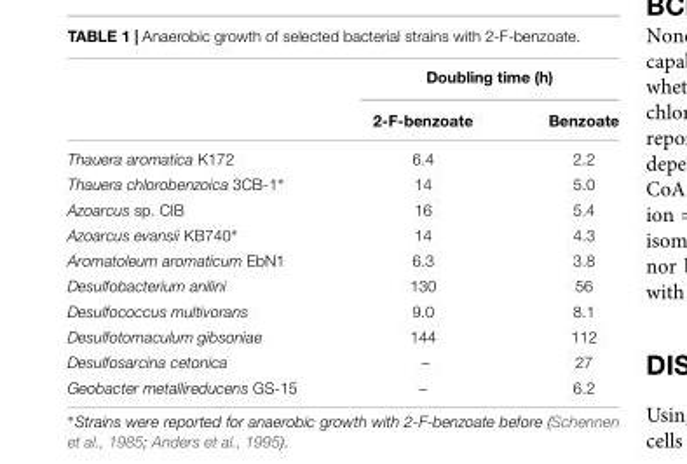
<table><thead><tr><td rowspan="2"></td><td colspan="2">Doubling time (h)</td></tr><tr><td>2-F-benzoate</td><td>Benzoate</td></tr></thead><tbody><tr><td>Thauera aromatica K172</td><td>6.4</td><td>2.2</td></tr><tr><td>Thauera chlorobenzoica 3CB-1∗</td><td>14</td><td>5.0</td></tr><tr><td>Azoarcus sp. CIB</td><td>16</td><td>5.4</td></tr><tr><td>Azoarcus evansii KB740∗</td><td>14</td><td>4.3</td></tr><tr><td>Aromatoleum aromaticum EbN1</td><td>6.3</td><td>3.8</td></tr><tr><td>Desulfobacterium anilini</td><td>130</td><td>56</td></tr><tr><td>Desulfococcus multivorans</td><td>9.0</td><td>8.1</td></tr><tr><td>Desulfotomaculum gibsoniae</td><td>144</td><td>112</td></tr><tr><td>Desulfosarcina cetonica</td><td>–</td><td>27</td></tr><tr><td>Geobacter metallireducens GS-15</td><td>–</td><td>6.2</td></tr></tbody></table>